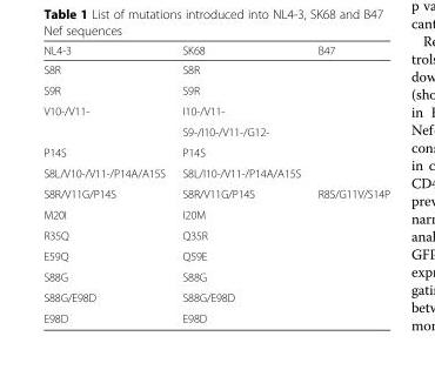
<table><thead><tr><td>NL4-3</td><td>SK68</td><td>B47</td></tr></thead><tbody><tr><td>S8R</td><td>S8R</td><td></td></tr><tr><td>S9R</td><td>S9R</td><td></td></tr><tr><td rowspan="2">V10-/V11-</td><td>I10-/V11-</td><td></td></tr><tr><td>S9-/I10-/V11-/G12-</td><td></td></tr><tr><td>P14S</td><td>P14S</td><td></td></tr><tr><td>S8L/V10-/V11-/P14A/A15S</td><td>S8L/I10-/V11-/P14A/A15S</td><td></td></tr><tr><td>S8R/V11G/P14S</td><td>S8R/V11G/P14S</td><td>R8S/G11V/S14P</td></tr><tr><td>M20I</td><td>I20M</td><td></td></tr><tr><td>R35Q</td><td>Q35R</td><td></td></tr><tr><td>E59Q</td><td>Q59E</td><td></td></tr><tr><td>S88G</td><td>S88G</td><td></td></tr><tr><td>S88G/E98D</td><td>S88G/E98D</td><td></td></tr><tr><td>E98D</td><td>E98D</td><td></td></tr></tbody></table>